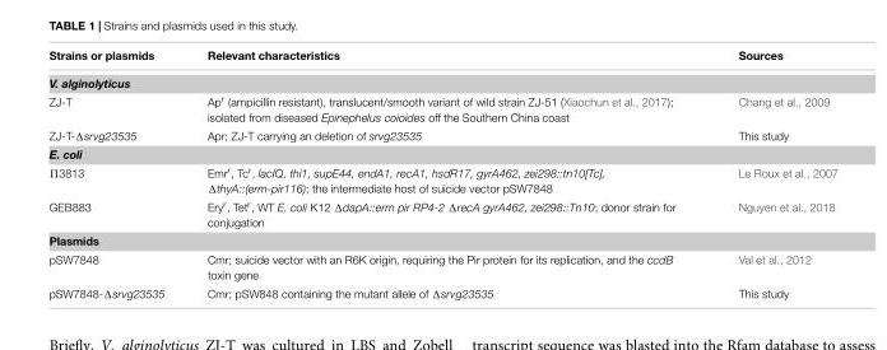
<table><thead><tr><td>Strains or plasmids</td><td>Relevant characteristics</td><td>Sources</td></tr></thead><tbody><tr><td colspan="3">V. alginolyticus</td></tr><tr><td>ZJ-T</td><td>Ap<sup>r</sup> (ampicillin resistant), translucent/smooth variant of wild strain ZJ-51 (Xiaochun et al., 2017); isolated from diseased Epinephelus coioides off the Southern China coast</td><td>Chang et al., 2009</td></tr><tr><td>ZJ-T-Δsrvg23535</td><td>Apr; ZJ-T carrying an deletion of srvg23535</td><td>This study</td></tr><tr><td colspan="3">E. coli</td></tr><tr><td>П3813</td><td>Emr<sup>r</sup>, Tc<sup>r</sup>, lacIQ, thi1, supE44, endA1, recA1, hsdR17, gyrA462, zei298::tn10[Tc], ΔthyA::(erm-pir116); the intermediate host of suicide vector pSW7848</td><td>Le Roux et al., 2007</td></tr><tr><td>GEB883</td><td>Ery<sup>r</sup>, Tet<sup>r</sup>, WT E. coli K12 ΔdapA::erm pir RP4-2 ΔrecA gyrA462, zei298::Tn10; donor strain for conjugation</td><td>Nguyen et al., 2018</td></tr><tr><td colspan="3">Plasmids</td></tr><tr><td>pSW7848</td><td>Cmr; suicide vector with an R6K origin, requiring the Pir protein for its replication, and the ccdB toxin gene</td><td>Val et al., 2012</td></tr><tr><td>pSW7848-Δsrvg23535</td><td>Cmr; pSW848 containing the mutant allele of Δsrvg23535</td><td>This study</td></tr></tbody></table>